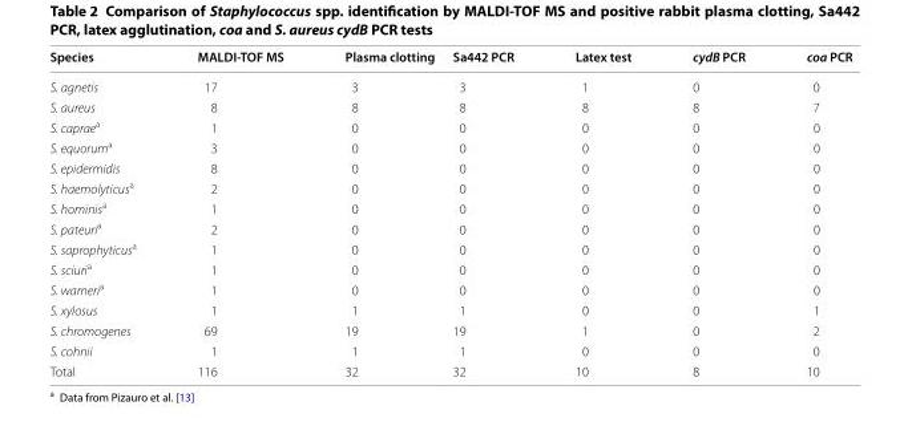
<table><thead><tr><td>Species</td><td>MALDI-TOF MS</td><td>Plasma clotting</td><td>Sa442 PCR</td><td>Latex test</td><td>cydB PCR</td><td>coa PCR</td></tr></thead><tbody><tr><td>S. agnetis</td><td>17</td><td>3</td><td>3</td><td>1</td><td>0</td><td>0</td></tr><tr><td>S. aureus</td><td>8</td><td>8</td><td>8</td><td>8</td><td>8</td><td>7</td></tr><tr><td>S. caprae<sup>a</sup></td><td>1</td><td>0</td><td>0</td><td>0</td><td>0</td><td>0</td></tr><tr><td>S. equorum<sup>a</sup></td><td>3</td><td>0</td><td>0</td><td>0</td><td>0</td><td>0</td></tr><tr><td>S. epidermidis</td><td>8</td><td>0</td><td>0</td><td>0</td><td>0</td><td>0</td></tr><tr><td>S. haemolyticus<sup>a</sup></td><td>2</td><td>0</td><td>0</td><td>0</td><td>0</td><td>0</td></tr><tr><td>S. hominis<sup>a</sup></td><td>1</td><td>0</td><td>0</td><td>0</td><td>0</td><td>0</td></tr><tr><td>S. pateuri<sup>a</sup></td><td>2</td><td>0</td><td>0</td><td>0</td><td>0</td><td>0</td></tr><tr><td>S. saprophyticus<sup>a</sup></td><td>1</td><td>0</td><td>0</td><td>0</td><td>0</td><td>0</td></tr><tr><td>S. sciuri<sup>a</sup></td><td>1</td><td>0</td><td>0</td><td>0</td><td>0</td><td>0</td></tr><tr><td>S. warneri<sup>a</sup></td><td>1</td><td>0</td><td>0</td><td>0</td><td>0</td><td>0</td></tr><tr><td>S. xylosus</td><td>1</td><td>1</td><td>1</td><td>0</td><td>0</td><td>1</td></tr><tr><td>S. chromogenes</td><td>69</td><td>19</td><td>19</td><td>1</td><td>0</td><td>2</td></tr><tr><td>S. cohnii</td><td>1</td><td>1</td><td>1</td><td>0</td><td>0</td><td>0</td></tr><tr><td>Total</td><td>116</td><td>32</td><td>32</td><td>10</td><td>8</td><td>10</td></tr></tbody></table>